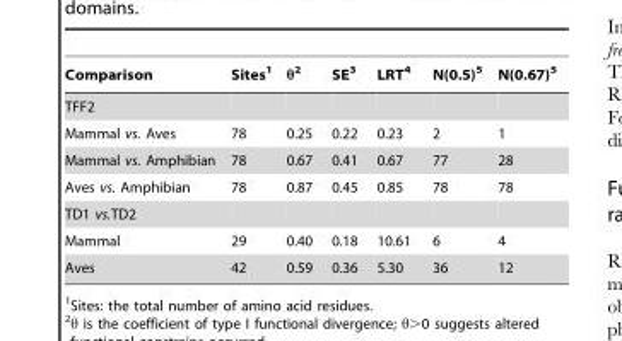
<table><thead><tr><td>Comparison</td><td>Sites<sup>1</sup></td><td>θ<sup>2</sup></td><td>SE<sup>3</sup></td><td>LRT<sup>4</sup></td><td>N(0.5)<sup>5</sup></td><td>N(0.67)<sup>5</sup></td></tr></thead><tbody><tr><td colspan="7">TFF2</td></tr><tr><td>Mammal vs. Aves</td><td>78</td><td>0.25</td><td>0.22</td><td>0.23</td><td>2</td><td>1</td></tr><tr><td>Mammal vs. Amphibian</td><td>78</td><td>0.67</td><td>0.41</td><td>0.67</td><td>77</td><td>28</td></tr><tr><td>Aves vs. Amphibian</td><td>78</td><td>0.87</td><td>0.45</td><td>0.85</td><td>78</td><td>78</td></tr><tr><td colspan="7">TD1 vs.TD2</td></tr><tr><td>Mammal</td><td>29</td><td>0.40</td><td>0.18</td><td>10.61</td><td>6</td><td>4</td></tr><tr><td>Aves</td><td>42</td><td>0.59</td><td>0.36</td><td>5.30</td><td>36</td><td>12</td></tr></tbody></table>